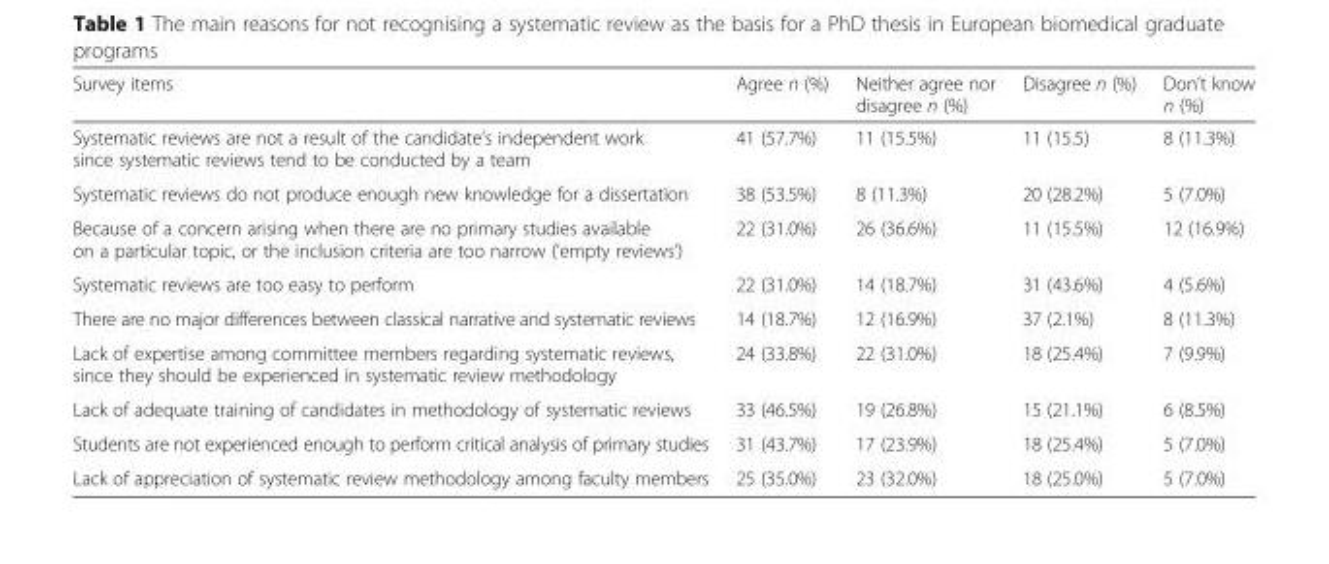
<table><thead><tr><td>Survey items</td><td>Agree n (%)</td><td>Neither agree nor disagree n (%)</td><td>Disagree n (%)</td><td>Don’t know n (%)</td></tr></thead><tbody><tr><td>Systematic reviews are not a result of the candidate’s independent work since systematic reviews tend to be conducted by a team</td><td>41 (57.7%)</td><td>11 (15.5%)</td><td>11 (15.5)</td><td>8 (11.3%)</td></tr><tr><td>Systematic reviews do not produce enough new knowledge for a dissertation</td><td>38 (53.5%)</td><td>8 (11.3%)</td><td>20 (28.2%)</td><td>5 (7.0%)</td></tr><tr><td>Because of a concern arising when there are no primary studies available on a particular topic, or the inclusion criteria are too narrow (‘empty reviews’)</td><td>22 (31.0%)</td><td>26 (36.6%)</td><td>11 (15.5%)</td><td>12 (16.9%)</td></tr><tr><td>Systematic reviews are too easy to perform</td><td>22 (31.0%)</td><td>14 (18.7%)</td><td>31 (43.6%)</td><td>4 (5.6%)</td></tr><tr><td>There are no major differences between classical narrative and systematic reviews</td><td>14 (18.7%)</td><td>12 (16.9%)</td><td>37 (2.1%)</td><td>8 (11.3%)</td></tr><tr><td>Lack of expertise among committee members regarding systematic reviews, since they should be experienced in systematic review methodology</td><td>24 (33.8%)</td><td>22 (31.0%)</td><td>18 (25.4%)</td><td>7 (9.9%)</td></tr><tr><td>Lack of adequate training of candidates in methodology of systematic reviews</td><td>33 (46.5%)</td><td>19 (26.8%)</td><td>15 (21.1%)</td><td>6 (8.5%)</td></tr><tr><td>Students are not experienced enough to perform critical analysis of primary studies</td><td>31 (43.7%)</td><td>17 (23.9%)</td><td>18 (25.4%)</td><td>5 (7.0%)</td></tr><tr><td>Lack of appreciation of systematic review methodology among faculty members</td><td>25 (35.0%)</td><td>23 (32.0%)</td><td>18 (25.0%)</td><td>5 (7.0%)</td></tr></tbody></table>